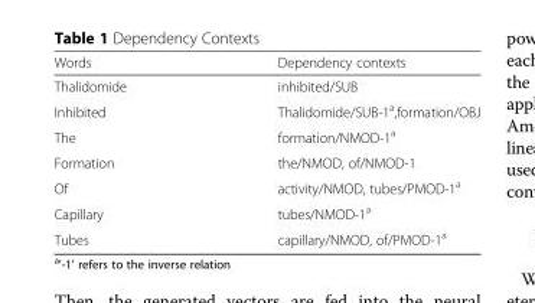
<table><thead><tr><td>Words</td><td>Dependency contexts</td></tr></thead><tbody><tr><td>Thalidomide</td><td>inhibited/SUB</td></tr><tr><td>Inhibited</td><td>Thalidomide/SUB-1<sup>a</sup>,formation/OBJ</td></tr><tr><td>The</td><td>formation/NMOD-1<sup>a</sup></td></tr><tr><td>Formation</td><td>the/NMOD, of/NMOD-1</td></tr><tr><td>Of</td><td>activity/NMOD, tubes/PMOD-1<sup>a</sup></td></tr><tr><td>Capillary</td><td>tubes/NMOD-1<sup>a</sup></td></tr><tr><td>Tubes</td><td>capillary/NMOD, of/PMOD-1<sup>a</sup></td></tr></tbody></table>